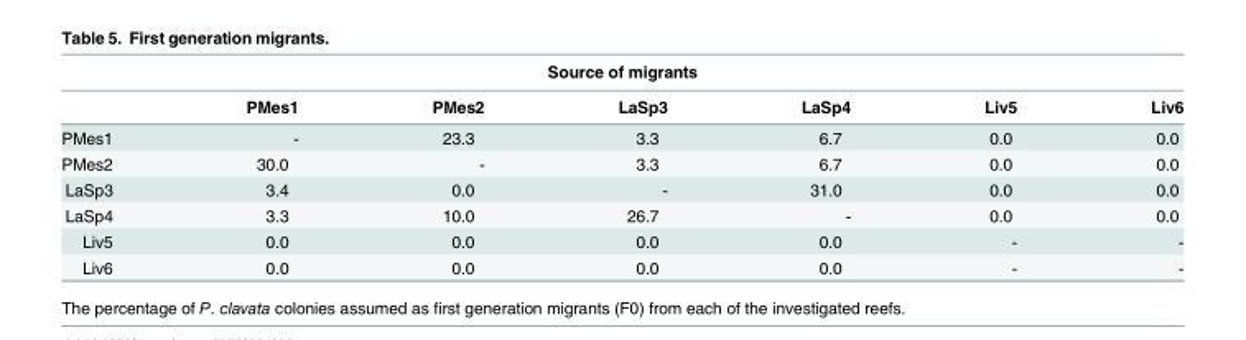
<table><thead><tr><td colspan="7">Source of migrants</td></tr><tr><td></td><td>PMes1</td><td>PMes2</td><td>LaSp3</td><td>LaSp4</td><td>Liv5</td><td>Liv6</td></tr></thead><tbody><tr><td>PMes1</td><td>-</td><td>23.3</td><td>3.3</td><td>6.7</td><td>0.0</td><td>0.0</td></tr><tr><td>PMes2</td><td>30.0</td><td>-</td><td>3.3</td><td>6.7</td><td>0.0</td><td>0.0</td></tr><tr><td>LaSp3</td><td>3.4</td><td>0.0</td><td>-</td><td>31.0</td><td>0.0</td><td>0.0</td></tr><tr><td>LaSp4</td><td>3.3</td><td>10.0</td><td>26.7</td><td>-</td><td>0.0</td><td>0.0</td></tr><tr><td>Liv5</td><td>0.0</td><td>0.0</td><td>0.0</td><td>0.0</td><td>-</td><td>-</td></tr><tr><td>Liv6</td><td>0.0</td><td>0.0</td><td>0.0</td><td>0.0</td><td>-</td><td>-</td></tr></tbody></table>